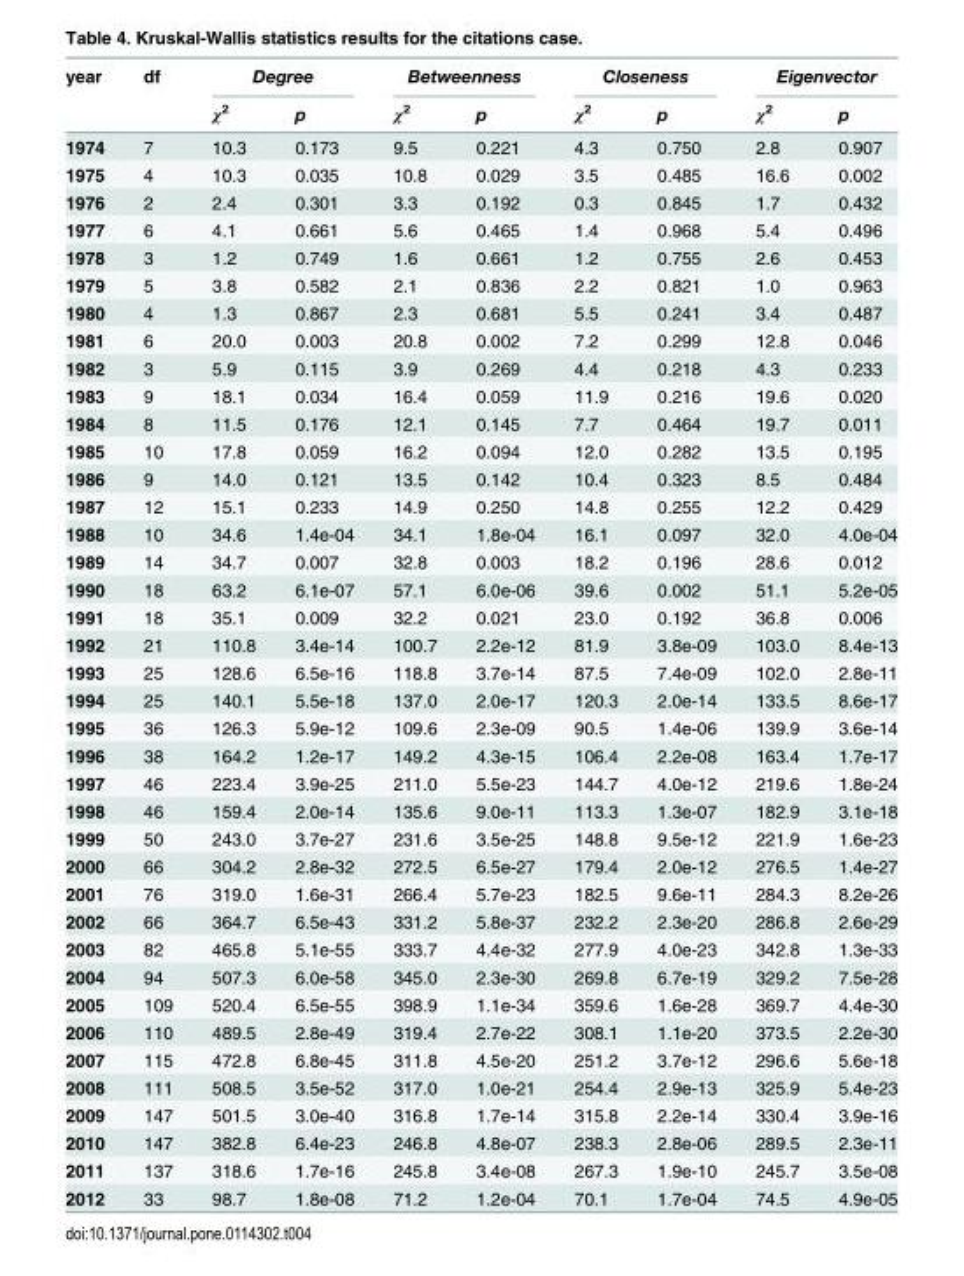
<table><thead><tr><td rowspan="2">year</td><td rowspan="2">df</td><td colspan="2">Degree</td><td colspan="2">Betweenness</td><td colspan="2">Closeness</td><td colspan="2">Eigenvector</td></tr><tr><td>χ<sup>2</sup></td><td>p</td><td>χ<sup>2</sup></td><td>p</td><td>χ<sup>2</sup></td><td>p</td><td>χ<sup>2</sup></td><td>p</td></tr></thead><tbody><tr><td>1974</td><td>7</td><td>10.3</td><td>0.173</td><td>9.5</td><td>0.221</td><td>4.3</td><td>0.750</td><td>2.8</td><td>0.907</td></tr><tr><td>1975</td><td>4</td><td>10.3</td><td>0.035</td><td>10.8</td><td>0.029</td><td>3.5</td><td>0.485</td><td>16.6</td><td>0.002</td></tr><tr><td>1976</td><td>2</td><td>2.4</td><td>0.301</td><td>3.3</td><td>0.192</td><td>0.3</td><td>0.845</td><td>1.7</td><td>0.432</td></tr><tr><td>1977</td><td>6</td><td>4.1</td><td>0.661</td><td>5.6</td><td>0.465</td><td>1.4</td><td>0.968</td><td>5.4</td><td>0.496</td></tr><tr><td>1978</td><td>3</td><td>1.2</td><td>0.749</td><td>1.6</td><td>0.661</td><td>1.2</td><td>0.755</td><td>2.6</td><td>0.453</td></tr><tr><td>1979</td><td>5</td><td>3.8</td><td>0.582</td><td>2.1</td><td>0.836</td><td>2.2</td><td>0.821</td><td>1.0</td><td>0.963</td></tr><tr><td>1980</td><td>4</td><td>1.3</td><td>0.867</td><td>2.3</td><td>0.681</td><td>5.5</td><td>0.241</td><td>3.4</td><td>0.487</td></tr><tr><td>1981</td><td>6</td><td>20.0</td><td>0.003</td><td>20.8</td><td>0.002</td><td>7.2</td><td>0.299</td><td>12.8</td><td>0.046</td></tr><tr><td>1982</td><td>3</td><td>5.9</td><td>0.115</td><td>3.9</td><td>0.269</td><td>4.4</td><td>0.218</td><td>4.3</td><td>0.233</td></tr><tr><td>1983</td><td>9</td><td>18.1</td><td>0.034</td><td>16.4</td><td>0.059</td><td>11.9</td><td>0.216</td><td>19.6</td><td>0.020</td></tr><tr><td>1984</td><td>8</td><td>11.5</td><td>0.176</td><td>12.1</td><td>0.145</td><td>7.7</td><td>0.464</td><td>19.7</td><td>0.011</td></tr><tr><td>1985</td><td>10</td><td>17.8</td><td>0.059</td><td>16.2</td><td>0.094</td><td>12.0</td><td>0.282</td><td>13.5</td><td>0.195</td></tr><tr><td>1986</td><td>9</td><td>14.0</td><td>0.121</td><td>13.5</td><td>0.142</td><td>10.4</td><td>0.323</td><td>8.5</td><td>0.484</td></tr><tr><td>1987</td><td>12</td><td>15.1</td><td>0.233</td><td>14.9</td><td>0.250</td><td>14.8</td><td>0.255</td><td>12.2</td><td>0.429</td></tr><tr><td>1988</td><td>10</td><td>34.6</td><td>1.4e-04</td><td>34.1</td><td>1.8e-04</td><td>16.1</td><td>0.097</td><td>32.0</td><td>4.0e-04</td></tr><tr><td>1989</td><td>14</td><td>34.7</td><td>0.007</td><td>32.8</td><td>0.003</td><td>18.2</td><td>0.196</td><td>28.6</td><td>0.012</td></tr><tr><td>1990</td><td>18</td><td>63.2</td><td>6.1e-07</td><td>57.1</td><td>6.0e-06</td><td>39.6</td><td>0.002</td><td>51.1</td><td>5.2e-05</td></tr><tr><td>1991</td><td>18</td><td>35.1</td><td>0.009</td><td>32.2</td><td>0.021</td><td>23.0</td><td>0.192</td><td>36.8</td><td>0.006</td></tr><tr><td>1992</td><td>21</td><td>110.8</td><td>3.4e-14</td><td>100.7</td><td>2.2e-12</td><td>81.9</td><td>3.8e-09</td><td>103.0</td><td>8.4e-13</td></tr><tr><td>1993</td><td>25</td><td>128.6</td><td>6.5e-16</td><td>118.8</td><td>3.7e-14</td><td>87.5</td><td>7.4e-09</td><td>102.0</td><td>2.8e-11</td></tr><tr><td>1994</td><td>25</td><td>140.1</td><td>5.5e-18</td><td>137.0</td><td>2.0e-17</td><td>120.3</td><td>2.0e-14</td><td>133.5</td><td>8.6e-17</td></tr><tr><td>1995</td><td>36</td><td>126.3</td><td>5.9e-12</td><td>109.6</td><td>2.3e-09</td><td>90.5</td><td>1.4e-06</td><td>139.9</td><td>3.6e-14</td></tr><tr><td>1996</td><td>38</td><td>164.2</td><td>1.2e-17</td><td>149.2</td><td>4.3e-15</td><td>106.4</td><td>2.2e-08</td><td>163.4</td><td>1.7e-17</td></tr><tr><td>1997</td><td>46</td><td>223.4</td><td>3.9e-25</td><td>211.0</td><td>5.5e-23</td><td>144.7</td><td>4.0e-12</td><td>219.6</td><td>1.8e-24</td></tr><tr><td>1998</td><td>46</td><td>159.4</td><td>2.0e-14</td><td>135.6</td><td>9.0e-11</td><td>113.3</td><td>1.3e-07</td><td>182.9</td><td>3.1e-18</td></tr><tr><td>1999</td><td>50</td><td>243.0</td><td>3.7e-27</td><td>231.6</td><td>3.5e-25</td><td>148.8</td><td>9.5e-12</td><td>221.9</td><td>1.6e-23</td></tr><tr><td>2000</td><td>66</td><td>304.2</td><td>2.8e-32</td><td>272.5</td><td>6.5e-27</td><td>179.4</td><td>2.0e-12</td><td>276.5</td><td>1.4e-27</td></tr><tr><td>2001</td><td>76</td><td>319.0</td><td>1.6e-31</td><td>266.4</td><td>5.7e-23</td><td>182.5</td><td>9.6e-11</td><td>284.3</td><td>8.2e-26</td></tr><tr><td>2002</td><td>66</td><td>364.7</td><td>6.5e-43</td><td>331.2</td><td>5.8e-37</td><td>232.2</td><td>2.3e-20</td><td>286.8</td><td>2.6e-29</td></tr><tr><td>2003</td><td>82</td><td>465.8</td><td>5.1e-55</td><td>333.7</td><td>4.4e-32</td><td>277.9</td><td>4.0e-23</td><td>342.8</td><td>1.3e-33</td></tr><tr><td>2004</td><td>94</td><td>507.3</td><td>6.0e-58</td><td>345.0</td><td>2.3e-30</td><td>269.8</td><td>6.7e-19</td><td>329.2</td><td>7.5e-28</td></tr><tr><td>2005</td><td>109</td><td>520.4</td><td>6.5e-55</td><td>398.9</td><td>1.1e-34</td><td>359.6</td><td>1.6e-28</td><td>369.7</td><td>4.4e-30</td></tr><tr><td>2006</td><td>110</td><td>489.5</td><td>2.8e-49</td><td>319.4</td><td>2.7e-22</td><td>308.1</td><td>1.1e-20</td><td>373.5</td><td>2.2e-30</td></tr><tr><td>2007</td><td>115</td><td>472.8</td><td>6.8e-45</td><td>311.8</td><td>4.5e-20</td><td>251.2</td><td>3.7e-12</td><td>296.6</td><td>5.6e-18</td></tr><tr><td>2008</td><td>111</td><td>508.5</td><td>3.5e-52</td><td>317.0</td><td>1.0e-21</td><td>254.4</td><td>2.9e-13</td><td>325.9</td><td>5.4e-23</td></tr><tr><td>2009</td><td>147</td><td>501.5</td><td>3.0e-40</td><td>316.8</td><td>1.7e-14</td><td>315.8</td><td>2.2e-14</td><td>330.4</td><td>3.9e-16</td></tr><tr><td>2010</td><td>147</td><td>382.8</td><td>6.4e-23</td><td>246.8</td><td>4.8e-07</td><td>238.3</td><td>2.8e-06</td><td>289.5</td><td>2.3e-11</td></tr><tr><td>2011</td><td>137</td><td>318.6</td><td>1.7e-16</td><td>245.8</td><td>3.4e-08</td><td>267.3</td><td>1.9e-10</td><td>245.7</td><td>3.5e-08</td></tr><tr><td>2012</td><td>33</td><td>98.7</td><td>1.8e-08</td><td>71.2</td><td>1.2e-04</td><td>70.1</td><td>1.7e-04</td><td>74.5</td><td>4.9e-05</td></tr></tbody></table>